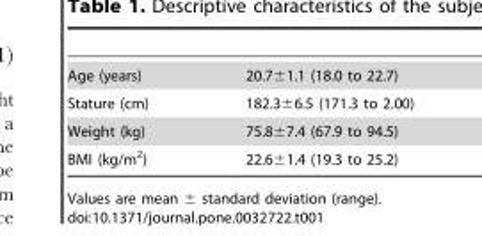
<table><tbody><tr><td>Age (years)</td><td>20.7±1.1 (18.0 to 22.7)</td></tr><tr><td>Stature (cm)</td><td>182.3±6.5 (171.3 to 2.00)</td></tr><tr><td>Weight (kg)</td><td>75.8±7.4 (67.9 to 94.5)</td></tr><tr><td>BMI (kg/m<sup>2</sup>)</td><td>22.6±1.4 (19.3 to 25.2)</td></tr></tbody></table>